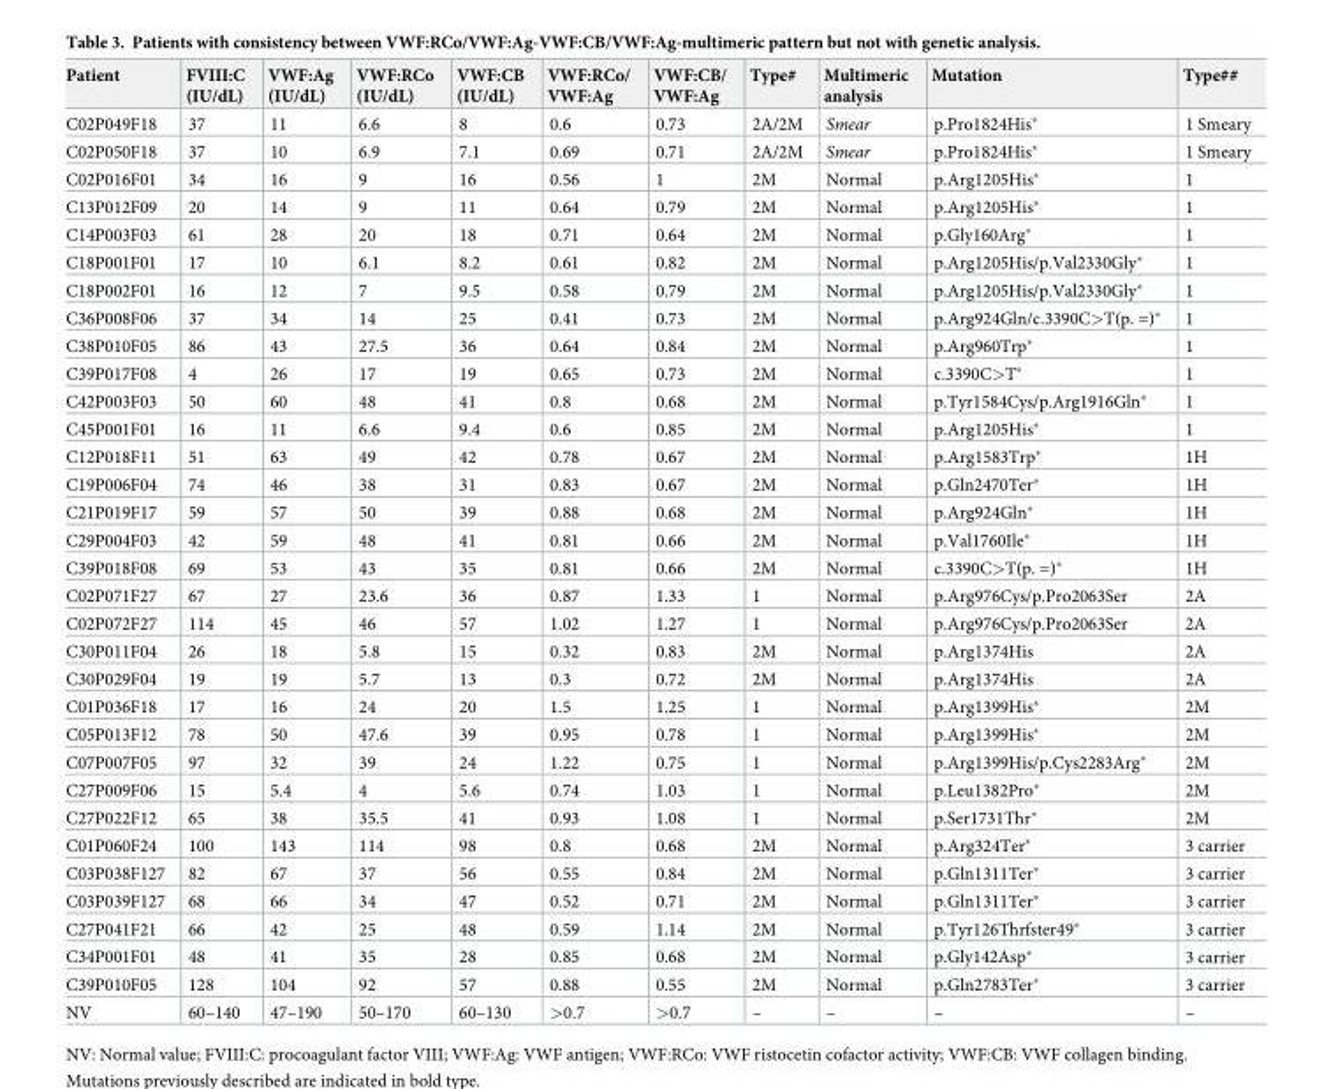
<table><thead><tr><td>Patient</td><td>FVIII:C (IU/dL)</td><td>VWF:Ag (IU/dL)</td><td>VWF:RCo (IU/dL)</td><td>VWF:CB (IU/dL)</td><td>VWF:RCo/ VWF:Ag</td><td>VWF:CB/ VWF:Ag</td><td>Type#</td><td>Multimeric analysis</td><td>Mutation</td><td>Type##</td></tr></thead><tbody><tr><td>C02P049F18</td><td>37</td><td>11</td><td>6.6</td><td>8</td><td>0.6</td><td>0.73</td><td>2A/2M</td><td>Smear</td><td>p.Pro1824His*</td><td>1 Smeary</td></tr><tr><td>C02P050F18</td><td>37</td><td>10</td><td>6.9</td><td>7.1</td><td>0.69</td><td>0.71</td><td>2A/2M</td><td>Smear</td><td>p.Pro1824His*</td><td>1 Smeary</td></tr><tr><td>C02P016F01</td><td>34</td><td>16</td><td>9</td><td>16</td><td>0.56</td><td>1</td><td>2M</td><td>Normal</td><td>p.Arg1205His*</td><td>1</td></tr><tr><td>C13P012F09</td><td>20</td><td>14</td><td>9</td><td>11</td><td>0.64</td><td>0.79</td><td>2M</td><td>Normal</td><td>p.Arg1205His*</td><td>1</td></tr><tr><td>C14P003F03</td><td>61</td><td>28</td><td>20</td><td>18</td><td>0.71</td><td>0.64</td><td>2M</td><td>Normal</td><td>p.Gly160Arg*</td><td>1</td></tr><tr><td>C18P001F01</td><td>17</td><td>10</td><td>6.1</td><td>8.2</td><td>0.61</td><td>0.82</td><td>2M</td><td>Normal</td><td>p.Arg1205His/p.Val2330Gly*</td><td>1</td></tr><tr><td>C18P002F01</td><td>16</td><td>12</td><td>7</td><td>9.5</td><td>0.58</td><td>0.79</td><td>2M</td><td>Normal</td><td>p.Arg1205His/p.Val2330Gly*</td><td>1</td></tr><tr><td>C36P008F06</td><td>37</td><td>34</td><td>14</td><td>25</td><td>0.41</td><td>0.73</td><td>2M</td><td>Normal</td><td>p.Arg924Gln/c.3390C&gt;T(p. =)*</td><td>1</td></tr><tr><td>C38P010F05</td><td>86</td><td>43</td><td>27.5</td><td>36</td><td>0.64</td><td>0.84</td><td>2M</td><td>Normal</td><td>p.Arg960Trp*</td><td>1</td></tr><tr><td>C39P017F08</td><td>4</td><td>26</td><td>17</td><td>19</td><td>0.65</td><td>0.73</td><td>2M</td><td>Normal</td><td>c.3390C&gt;T*</td><td>1</td></tr><tr><td>C42P003F03</td><td>50</td><td>60</td><td>48</td><td>41</td><td>0.8</td><td>0.68</td><td>2M</td><td>Normal</td><td>p.Tyr1584Cys/p.Arg1916Gln*</td><td>1</td></tr><tr><td>C45P001F01</td><td>16</td><td>11</td><td>6.6</td><td>9.4</td><td>0.6</td><td>0.85</td><td>2M</td><td>Normal</td><td>p.Arg1205His*</td><td>1</td></tr><tr><td>C12P018F11</td><td>51</td><td>63</td><td>49</td><td>42</td><td>0.78</td><td>0.67</td><td>2M</td><td>Normal</td><td>p.Arg1583Trp*</td><td>1H</td></tr><tr><td>C19P006F04</td><td>74</td><td>46</td><td>38</td><td>31</td><td>0.83</td><td>0.67</td><td>2M</td><td>Normal</td><td>p.Gln2470Ter*</td><td>1H</td></tr><tr><td>C21P019F17</td><td>59</td><td>57</td><td>50</td><td>39</td><td>0.88</td><td>0.68</td><td>2M</td><td>Normal</td><td>p.Arg924Gln*</td><td>1H</td></tr><tr><td>C29P004F03</td><td>42</td><td>59</td><td>48</td><td>41</td><td>0.81</td><td>0.66</td><td>2M</td><td>Normal</td><td>p.Val1760Ile*</td><td>1H</td></tr><tr><td>C39P018F08</td><td>69</td><td>53</td><td>43</td><td>35</td><td>0.81</td><td>0.66</td><td>2M</td><td>Normal</td><td>c.3390C&gt;T(p. =)*</td><td>1H</td></tr><tr><td>C02P071F27</td><td>67</td><td>27</td><td>23.6</td><td>36</td><td>0.87</td><td>1.33</td><td>1</td><td>Normal</td><td>p.Arg976Cys/p.Pro2063Ser</td><td>2A</td></tr><tr><td>C02P072F27</td><td>114</td><td>45</td><td>46</td><td>57</td><td>1.02</td><td>1.27</td><td>1</td><td>Normal</td><td>p.Arg976Cys/p.Pro2063Ser</td><td>2A</td></tr><tr><td>C30P011F04</td><td>26</td><td>18</td><td>5.8</td><td>15</td><td>0.32</td><td>0.83</td><td>2M</td><td>Normal</td><td>p.Arg1374His</td><td>2A</td></tr><tr><td>C30P029F04</td><td>19</td><td>19</td><td>5.7</td><td>13</td><td>0.3</td><td>0.72</td><td>2M</td><td>Normal</td><td>p.Arg1374His</td><td>2A</td></tr><tr><td>C01P036F18</td><td>17</td><td>16</td><td>24</td><td>20</td><td>1.5</td><td>1.25</td><td>1</td><td>Normal</td><td>p.Arg1399His*</td><td>2M</td></tr><tr><td>C05P013F12</td><td>78</td><td>50</td><td>47.6</td><td>39</td><td>0.95</td><td>0.78</td><td>1</td><td>Normal</td><td>p.Arg1399His*</td><td>2M</td></tr><tr><td>C07P007F05</td><td>97</td><td>32</td><td>39</td><td>24</td><td>1.22</td><td>0.75</td><td>1</td><td>Normal</td><td>p.Arg1399His/p.Cys2283Arg*</td><td>2M</td></tr><tr><td>C27P009F06</td><td>15</td><td>5.4</td><td>4</td><td>5.6</td><td>0.74</td><td>1.03</td><td>1</td><td>Normal</td><td>p.Leu1382Pro*</td><td>2M</td></tr><tr><td>C27P022F12</td><td>65</td><td>38</td><td>35.5</td><td>41</td><td>0.93</td><td>1.08</td><td>1</td><td>Normal</td><td>p.Ser1731Thr*</td><td>2M</td></tr><tr><td>C01P060F24</td><td>100</td><td>143</td><td>114</td><td>98</td><td>0.8</td><td>0.68</td><td>2M</td><td>Normal</td><td>p.Arg324Ter*</td><td>3 carrier</td></tr><tr><td>C03P038F127</td><td>82</td><td>67</td><td>37</td><td>56</td><td>0.55</td><td>0.84</td><td>2M</td><td>Normal</td><td>p.Gln1311Ter*</td><td>3 carrier</td></tr><tr><td>C03P039F127</td><td>68</td><td>66</td><td>34</td><td>47</td><td>0.52</td><td>0.71</td><td>2M</td><td>Normal</td><td>p.Gln1311Ter*</td><td>3 carrier</td></tr><tr><td>C27P041F21</td><td>66</td><td>42</td><td>25</td><td>48</td><td>0.59</td><td>1.14</td><td>2M</td><td>Normal</td><td>p.Tyr126Thrfster49*</td><td>3 carrier</td></tr><tr><td>C34P001F01</td><td>48</td><td>41</td><td>35</td><td>28</td><td>0.85</td><td>0.68</td><td>2M</td><td>Normal</td><td>p.Gly142Asp*</td><td>3 carrier</td></tr><tr><td>C39P010F05</td><td>128</td><td>104</td><td>92</td><td>57</td><td>0.88</td><td>0.55</td><td>2M</td><td>Normal</td><td>p.Gln2783Ter*</td><td>3 carrier</td></tr><tr><td>NV</td><td>60–140</td><td>47–190</td><td>50–170</td><td>60–130</td><td>&gt;0.7</td><td>&gt;0.7</td><td>–</td><td>–</td><td>–</td><td>–</td></tr></tbody></table>